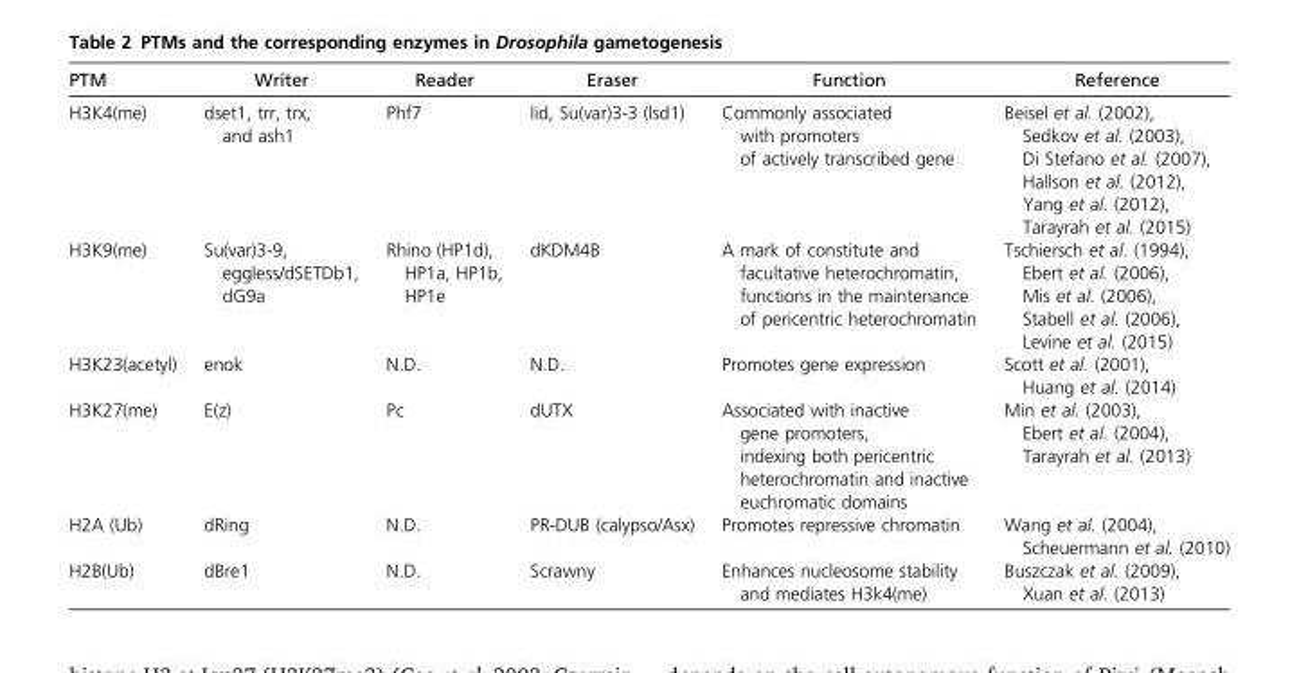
<table><thead><tr><td>PTM</td><td>Writer</td><td>Reader</td><td>Eraser</td><td>Function</td><td>Reference</td></tr></thead><tbody><tr><td>H3K4(me)</td><td>dset1, trr, trx, and ash1</td><td>Phf7</td><td>lid, Su(var)3-3 (lsd1)</td><td>Commonly associated with promoters of actively transcribed gene</td><td>Beisel et al. (2002), Sedkov et al. (2003), Di Stefano et al. (2007), Hallson et al. (2012), Yang et al. (2012), Tarayrah et al. (2015)</td></tr><tr><td>H3K9(me)</td><td>Su(var)3-9, eggless/dSETDb1, dG9a</td><td>Rhino (HP1d), HP1a, HP1b, HP1e</td><td>dKDM4B</td><td>A mark of constitute and facultative heterochromatin, functions in the maintenance of pericentric heterochromatin</td><td>Tschiersch et al. (1994), Ebert et al. (2006), Mis et al. (2006), Stabell et al. (2006), Levine et al. (2015)</td></tr><tr><td>H3K23(acetyl)</td><td>enok</td><td>N.D.</td><td>N.D.</td><td>Promotes gene expression</td><td>Scott et al. (2001), Huang et al. (2014)</td></tr><tr><td>H3K27(me)</td><td>E(z)</td><td>Pc</td><td>dUTX</td><td>Associated with inactive gene promoters, indexing both pericentric heterochromatin and inactive euchromatic domains</td><td>Min et al. (2003), Ebert et al. (2004), Tarayrah et al. (2013)</td></tr><tr><td>H2A (Ub)</td><td>dRing</td><td>N.D.</td><td>PR-DUB (calypso/Asx)</td><td>Promotes repressive chromatin</td><td>Wang et al. (2004), Scheuermann et al. (2010)</td></tr><tr><td>H2B(Ub)</td><td>dBre1</td><td>N.D.</td><td>Scrawny</td><td>Enhances nucleosome stability and mediates H3k4(me)</td><td>Buszczak et al. (2009), Xuan et al. (2013)</td></tr></tbody></table>